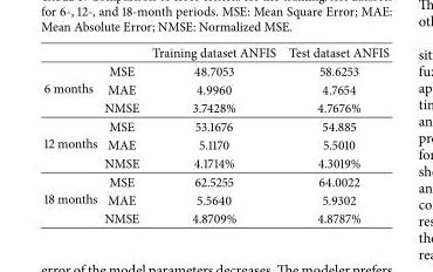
<table><thead><tr><td></td><td></td><td>Training dataset ANFIS</td><td>Test dataset ANFIS</td></tr></thead><tbody><tr><td rowspan="3">6 months</td><td>MSE</td><td>48.7053</td><td>58.6253</td></tr><tr><td>MAE</td><td>4.9960</td><td>4.7654</td></tr><tr><td>NMSE</td><td>3.7428%</td><td>4.7676%</td></tr><tr><td rowspan="3">12 months</td><td>MSE</td><td>53.1676</td><td>54.885</td></tr><tr><td>MAE</td><td>5.1170</td><td>5.5010</td></tr><tr><td>NMSE</td><td>4.1714%</td><td>4.3019%</td></tr><tr><td rowspan="3">18 months</td><td>MSE</td><td>62.5255</td><td>64.0022</td></tr><tr><td>MAE</td><td>5.5640</td><td>5.9302</td></tr><tr><td>NMSE</td><td>4.8709%</td><td>4.8787%</td></tr></tbody></table>